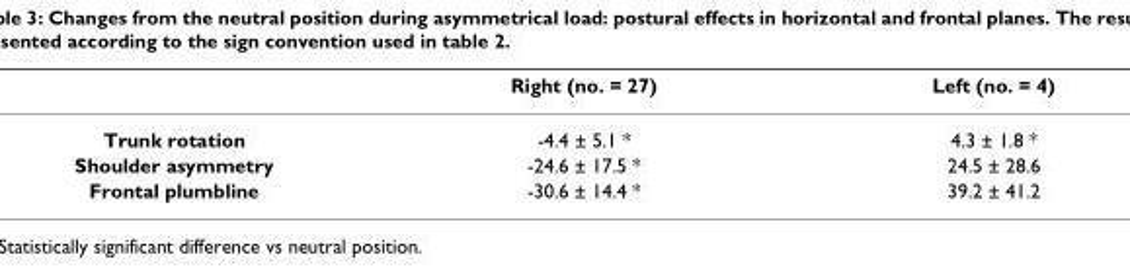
<table><thead><tr><td></td><td>Right (no. = 27)</td><td>Left (no. = 4)</td></tr></thead><tbody><tr><td>Trunk rotation</td><td>-4.4 ± 5.1 *</td><td>4.3 ± 1.8 *</td></tr><tr><td>Shoulder asymmetry</td><td>-24.6 ± 17.5 *</td><td>24.5 ± 28.6</td></tr><tr><td>Frontal plumbline</td><td>-30.6 ± 14.4 *</td><td>39.2 ± 41.2</td></tr></tbody></table>